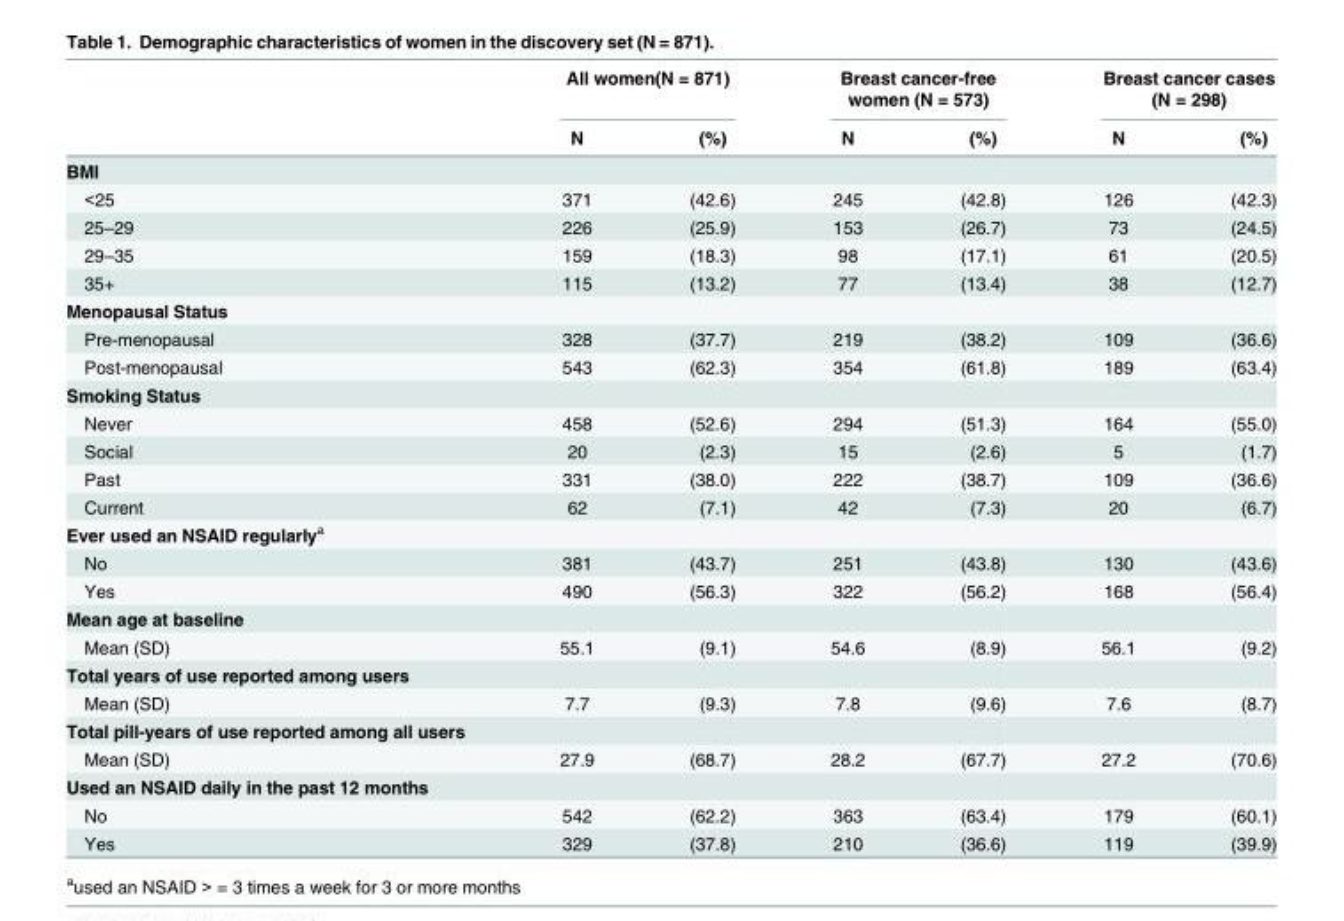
<table><thead><tr><td rowspan="2"></td><td colspan="2">All women(N = 871)</td><td colspan="2">Breast cancer-free women (N = 573)</td><td colspan="2">Breast cancer cases (N = 298)</td></tr><tr><td>N</td><td>(%)</td><td>N</td><td>(%)</td><td>N</td><td>(%)</td></tr></thead><tbody><tr><td colspan="7">BMI</td></tr><tr><td>&lt;25</td><td>371</td><td>(42.6)</td><td>245</td><td>(42.8)</td><td>126</td><td>(42.3)</td></tr><tr><td>25–29</td><td>226</td><td>(25.9)</td><td>153</td><td>(26.7)</td><td>73</td><td>(24.5)</td></tr><tr><td>29–35</td><td>159</td><td>(18.3)</td><td>98</td><td>(17.1)</td><td>61</td><td>(20.5)</td></tr><tr><td>35+</td><td>115</td><td>(13.2)</td><td>77</td><td>(13.4)</td><td>38</td><td>(12.7)</td></tr><tr><td colspan="7">Menopausal Status</td></tr><tr><td>Pre-menopausal</td><td>328</td><td>(37.7)</td><td>219</td><td>(38.2)</td><td>109</td><td>(36.6)</td></tr><tr><td>Post-menopausal</td><td>543</td><td>(62.3)</td><td>354</td><td>(61.8)</td><td>189</td><td>(63.4)</td></tr><tr><td colspan="7">Smoking Status</td></tr><tr><td>Never</td><td>458</td><td>(52.6)</td><td>294</td><td>(51.3)</td><td>164</td><td>(55.0)</td></tr><tr><td>Social</td><td>20</td><td>(2.3)</td><td>15</td><td>(2.6)</td><td>5</td><td>(1.7)</td></tr><tr><td>Past</td><td>331</td><td>(38.0)</td><td>222</td><td>(38.7)</td><td>109</td><td>(36.6)</td></tr><tr><td>Current</td><td>62</td><td>(7.1)</td><td>42</td><td>(7.3)</td><td>20</td><td>(6.7)</td></tr><tr><td colspan="7">Ever used an NSAID regularly<sup>a</sup></td></tr><tr><td>No</td><td>381</td><td>(43.7)</td><td>251</td><td>(43.8)</td><td>130</td><td>(43.6)</td></tr><tr><td>Yes</td><td>490</td><td>(56.3)</td><td>322</td><td>(56.2)</td><td>168</td><td>(56.4)</td></tr><tr><td colspan="7">Mean age at baseline</td></tr><tr><td>Mean (SD)</td><td>55.1</td><td>(9.1)</td><td>54.6</td><td>(8.9)</td><td>56.1</td><td>(9.2)</td></tr><tr><td colspan="7">Total years of use reported among users</td></tr><tr><td>Mean (SD)</td><td>7.7</td><td>(9.3)</td><td>7.8</td><td>(9.6)</td><td>7.6</td><td>(8.7)</td></tr><tr><td colspan="7">Total pill-years of use reported among all users</td></tr><tr><td>Mean (SD)</td><td>27.9</td><td>(68.7)</td><td>28.2</td><td>(67.7)</td><td>27.2</td><td>(70.6)</td></tr><tr><td colspan="7">Used an NSAID daily in the past 12 months</td></tr><tr><td>No</td><td>542</td><td>(62.2)</td><td>363</td><td>(63.4)</td><td>179</td><td>(60.1)</td></tr><tr><td>Yes</td><td>329</td><td>(37.8)</td><td>210</td><td>(36.6)</td><td>119</td><td>(39.9)</td></tr></tbody></table>